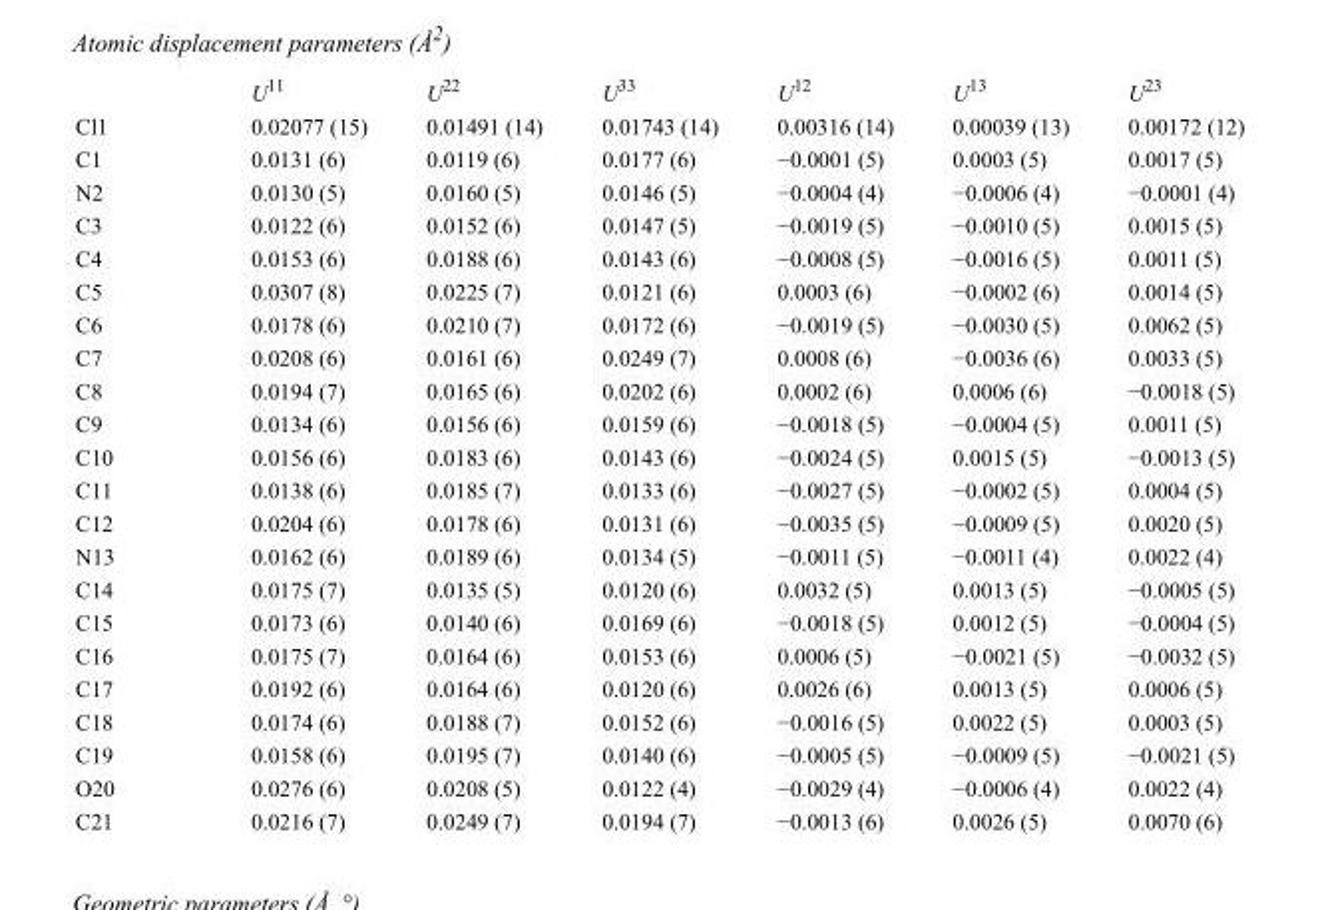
<table><thead><tr><td></td><td>U<sup>11</sup></td><td>U<sup>22</sup></td><td>U<sup>33</sup></td><td>U<sup>12</sup></td><td>U<sup>13</sup></td><td>U<sup>23</sup></td></tr></thead><tbody><tr><td>Cl1</td><td>0.02077 (15)</td><td>0.01491 (14)</td><td>0.01743 (14)</td><td>0.00316 (14)</td><td>0.00039 (13)</td><td>0.00172 (12)</td></tr><tr><td>C1</td><td>0.0131 (6)</td><td>0.0119 (6)</td><td>0.0177 (6)</td><td>−0.0001 (5)</td><td>0.0003 (5)</td><td>0.0017 (5)</td></tr><tr><td>N2</td><td>0.0130 (5)</td><td>0.0160 (5)</td><td>0.0146 (5)</td><td>−0.0004 (4)</td><td>−0.0006 (4)</td><td>−0.0001 (4)</td></tr><tr><td>C3</td><td>0.0122 (6)</td><td>0.0152 (6)</td><td>0.0147 (5)</td><td>−0.0019 (5)</td><td>−0.0010 (5)</td><td>0.0015 (5)</td></tr><tr><td>C4</td><td>0.0153 (6)</td><td>0.0188 (6)</td><td>0.0143 (6)</td><td>−0.0008 (5)</td><td>−0.0016 (5)</td><td>0.0011 (5)</td></tr><tr><td>C5</td><td>0.0307 (8)</td><td>0.0225 (7)</td><td>0.0121 (6)</td><td>0.0003 (6)</td><td>−0.0002 (6)</td><td>0.0014 (5)</td></tr><tr><td>C6</td><td>0.0178 (6)</td><td>0.0210 (7)</td><td>0.0172 (6)</td><td>−0.0019 (5)</td><td>−0.0030 (5)</td><td>0.0062 (5)</td></tr><tr><td>C7</td><td>0.0208 (6)</td><td>0.0161 (6)</td><td>0.0249 (7)</td><td>0.0008 (6)</td><td>−0.0036 (6)</td><td>0.0033 (5)</td></tr><tr><td>C8</td><td>0.0194 (7)</td><td>0.0165 (6)</td><td>0.0202 (6)</td><td>0.0002 (6)</td><td>0.0006 (6)</td><td>−0.0018 (5)</td></tr><tr><td>C9</td><td>0.0134 (6)</td><td>0.0156 (6)</td><td>0.0159 (6)</td><td>−0.0018 (5)</td><td>−0.0004 (5)</td><td>0.0011 (5)</td></tr><tr><td>C10</td><td>0.0156 (6)</td><td>0.0183 (6)</td><td>0.0143 (6)</td><td>−0.0024 (5)</td><td>0.0015 (5)</td><td>−0.0013 (5)</td></tr><tr><td>C11</td><td>0.0138 (6)</td><td>0.0185 (7)</td><td>0.0133 (6)</td><td>−0.0027 (5)</td><td>−0.0002 (5)</td><td>0.0004 (5)</td></tr><tr><td>C12</td><td>0.0204 (6)</td><td>0.0178 (6)</td><td>0.0131 (6)</td><td>−0.0035 (5)</td><td>−0.0009 (5)</td><td>0.0020 (5)</td></tr><tr><td>N13</td><td>0.0162 (6)</td><td>0.0189 (6)</td><td>0.0134 (5)</td><td>−0.0011 (5)</td><td>−0.0011 (4)</td><td>0.0022 (4)</td></tr><tr><td>C14</td><td>0.0175 (7)</td><td>0.0135 (5)</td><td>0.0120 (6)</td><td>0.0032 (5)</td><td>0.0013 (5)</td><td>−0.0005 (5)</td></tr><tr><td>C15</td><td>0.0173 (6)</td><td>0.0140 (6)</td><td>0.0169 (6)</td><td>−0.0018 (5)</td><td>0.0012 (5)</td><td>−0.0004 (5)</td></tr><tr><td>C16</td><td>0.0175 (7)</td><td>0.0164 (6)</td><td>0.0153 (6)</td><td>0.0006 (5)</td><td>−0.0021 (5)</td><td>−0.0032 (5)</td></tr><tr><td>C17</td><td>0.0192 (6)</td><td>0.0164 (6)</td><td>0.0120 (6)</td><td>0.0026 (6)</td><td>0.0013 (5)</td><td>0.0006 (5)</td></tr><tr><td>C18</td><td>0.0174 (6)</td><td>0.0188 (7)</td><td>0.0152 (6)</td><td>−0.0016 (5)</td><td>0.0022 (5)</td><td>0.0003 (5)</td></tr><tr><td>C19</td><td>0.0158 (6)</td><td>0.0195 (7)</td><td>0.0140 (6)</td><td>−0.0005 (5)</td><td>−0.0009 (5)</td><td>−0.0021 (5)</td></tr><tr><td>O20</td><td>0.0276 (6)</td><td>0.0208 (5)</td><td>0.0122 (4)</td><td>−0.0029 (4)</td><td>−0.0006 (4)</td><td>0.0022 (4)</td></tr><tr><td>C21</td><td>0.0216 (7)</td><td>0.0249 (7)</td><td>0.0194 (7)</td><td>−0.0013 (6)</td><td>0.0026 (5)</td><td>0.0070 (6)</td></tr></tbody></table>